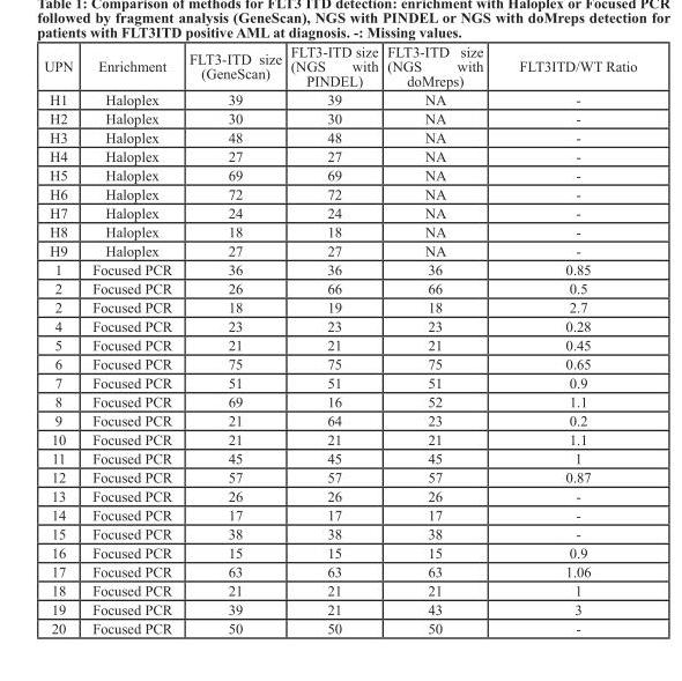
<table><thead><tr><td>UPN</td><td>Enrichment</td><td>FLT3-ITD size (GeneScan)</td><td>FLT3-ITD size (NGS with PINDEL)</td><td>FLT3-ITD size (NGS with doMreps)</td><td>FLT3ITD/WT Ratio</td></tr></thead><tbody><tr><td>H1</td><td>Haloplex</td><td>39</td><td>39</td><td>NA</td><td>-</td></tr><tr><td>H2</td><td>Haloplex</td><td>30</td><td>30</td><td>NA</td><td>-</td></tr><tr><td>H3</td><td>Haloplex</td><td>48</td><td>48</td><td>NA</td><td>-</td></tr><tr><td>H4</td><td>Haloplex</td><td>27</td><td>27</td><td>NA</td><td>-</td></tr><tr><td>H5</td><td>Haloplex</td><td>69</td><td>69</td><td>NA</td><td>-</td></tr><tr><td>H6</td><td>Haloplex</td><td>72</td><td>72</td><td>NA</td><td>-</td></tr><tr><td>H7</td><td>Haloplex</td><td>24</td><td>24</td><td>NA</td><td>-</td></tr><tr><td>H8</td><td>Haloplex</td><td>18</td><td>18</td><td>NA</td><td>-</td></tr><tr><td>H9</td><td>Haloplex</td><td>27</td><td>27</td><td>NA</td><td>-</td></tr><tr><td>1</td><td>Focused PCR</td><td>36</td><td>36</td><td>36</td><td>0.85</td></tr><tr><td>2</td><td>Focused PCR</td><td>26</td><td>66</td><td>66</td><td>0.5</td></tr><tr><td>2</td><td>Focused PCR</td><td>18</td><td>19</td><td>18</td><td>2.7</td></tr><tr><td>4</td><td>Focused PCR</td><td>23</td><td>23</td><td>23</td><td>0.28</td></tr><tr><td>5</td><td>Focused PCR</td><td>21</td><td>21</td><td>21</td><td>0.45</td></tr><tr><td>6</td><td>Focused PCR</td><td>75</td><td>75</td><td>75</td><td>0.65</td></tr><tr><td>7</td><td>Focused PCR</td><td>51</td><td>51</td><td>51</td><td>0.9</td></tr><tr><td>8</td><td>Focused PCR</td><td>69</td><td>16</td><td>52</td><td>1.1</td></tr><tr><td>9</td><td>Focused PCR</td><td>21</td><td>64</td><td>23</td><td>0.2</td></tr><tr><td>10</td><td>Focused PCR</td><td>21</td><td>21</td><td>21</td><td>1.1</td></tr><tr><td>11</td><td>Focused PCR</td><td>45</td><td>45</td><td>45</td><td>1</td></tr><tr><td>12</td><td>Focused PCR</td><td>57</td><td>57</td><td>57</td><td>0.87</td></tr><tr><td>13</td><td>Focused PCR</td><td>26</td><td>26</td><td>26</td><td>-</td></tr><tr><td>14</td><td>Focused PCR</td><td>17</td><td>17</td><td>17</td><td>-</td></tr><tr><td>15</td><td>Focused PCR</td><td>38</td><td>38</td><td>38</td><td>-</td></tr><tr><td>16</td><td>Focused PCR</td><td>15</td><td>15</td><td>15</td><td>0.9</td></tr><tr><td>17</td><td>Focused PCR</td><td>63</td><td>63</td><td>63</td><td>1.06</td></tr><tr><td>18</td><td>Focused PCR</td><td>21</td><td>21</td><td>21</td><td>1</td></tr><tr><td>19</td><td>Focused PCR</td><td>39</td><td>21</td><td>43</td><td>3</td></tr><tr><td>20</td><td>Focused PCR</td><td>50</td><td>50</td><td>50</td><td>-</td></tr></tbody></table>